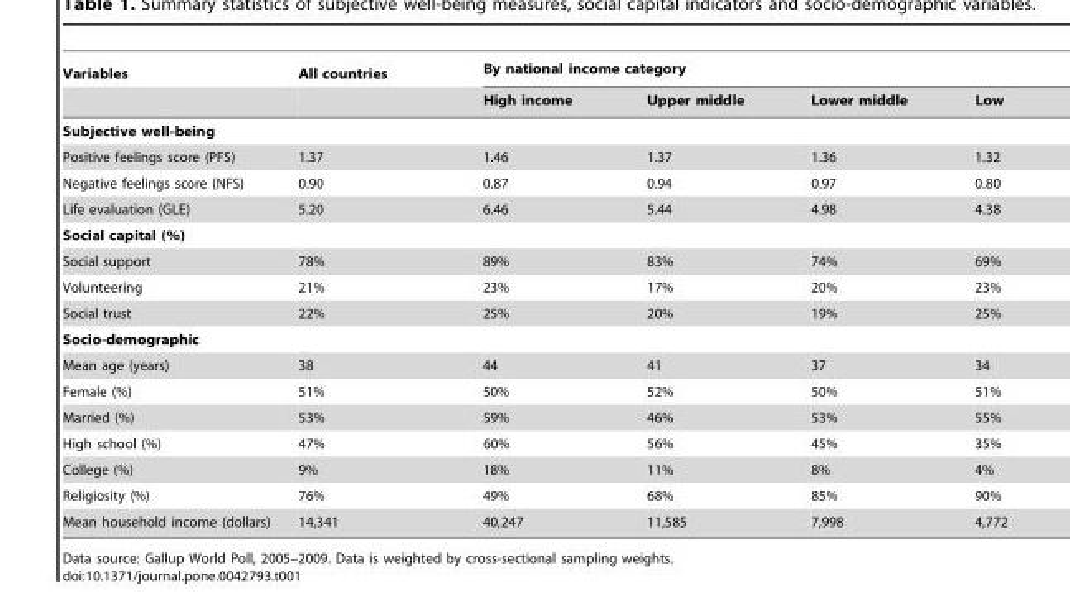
<table><thead><tr><td rowspan="2">Variables</td><td rowspan="2">All countries</td><td colspan="4">By national income category</td></tr><tr><td>High income</td><td>Upper middle</td><td>Lower middle</td><td>Low</td></tr></thead><tbody><tr><td colspan="6">Subjective well-being</td></tr><tr><td>Positive feelings score (PFS)</td><td>1.37</td><td>1.46</td><td>1.37</td><td>1.36</td><td>1.32</td></tr><tr><td>Negative feelings score (NFS)</td><td>0.90</td><td>0.87</td><td>0.94</td><td>0.97</td><td>0.80</td></tr><tr><td>Life evaluation (GLE)</td><td>5.20</td><td>6.46</td><td>5.44</td><td>4.98</td><td>4.38</td></tr><tr><td colspan="6">Social capital (%)</td></tr><tr><td>Social support</td><td>78%</td><td>89%</td><td>83%</td><td>74%</td><td>69%</td></tr><tr><td>Volunteering</td><td>21%</td><td>23%</td><td>17%</td><td>20%</td><td>23%</td></tr><tr><td>Social trust</td><td>22%</td><td>25%</td><td>20%</td><td>19%</td><td>25%</td></tr><tr><td colspan="6">Socio-demographic</td></tr><tr><td>Mean age (years)</td><td>38</td><td>44</td><td>41</td><td>37</td><td>34</td></tr><tr><td>Female (%)</td><td>51%</td><td>50%</td><td>52%</td><td>50%</td><td>51%</td></tr><tr><td>Married (%)</td><td>53%</td><td>59%</td><td>46%</td><td>53%</td><td>55%</td></tr><tr><td>High school (%)</td><td>47%</td><td>60%</td><td>56%</td><td>45%</td><td>35%</td></tr><tr><td>College (%)</td><td>9%</td><td>18%</td><td>11%</td><td>8%</td><td>4%</td></tr><tr><td>Religiosity (%)</td><td>76%</td><td>49%</td><td>68%</td><td>85%</td><td>90%</td></tr><tr><td>Mean household income (dollars)</td><td>14,341</td><td>40,247</td><td>11,585</td><td>7,998</td><td>4,772</td></tr></tbody></table>